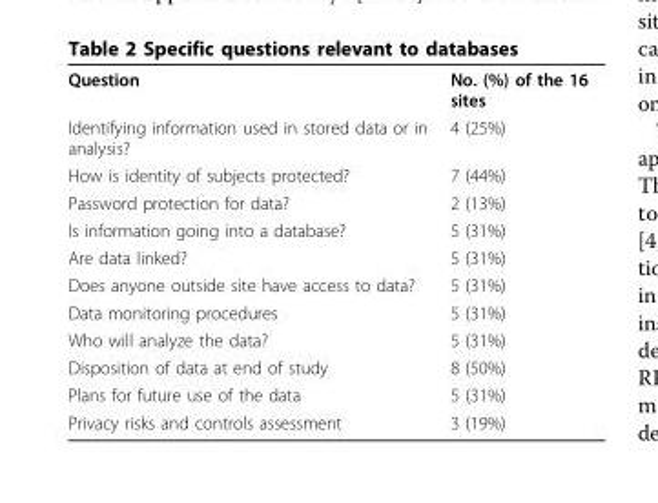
<table><tbody><tr><td>Question</td><td>No. (%) of the 16 sites</td></tr><tr><td>Identifying information used in stored data or in analysis?</td><td>4 (25%)</td></tr><tr><td>How is identity of subjects protected?</td><td>7 (44%)</td></tr><tr><td>Password protection for data?</td><td>2 (13%)</td></tr><tr><td>Is information going into a database?</td><td>5 (31%)</td></tr><tr><td>Are data linked?</td><td>5 (31%)</td></tr><tr><td>Does anyone outside site have access to data?</td><td>5 (31%)</td></tr><tr><td>Data monitoring procedures</td><td>5 (31%)</td></tr><tr><td>Who will analyze the data?</td><td>5 (31%)</td></tr><tr><td>Disposition of data at end of study</td><td>8 (50%)</td></tr><tr><td>Plans for future use of the data</td><td>5 (31%)</td></tr><tr><td>Privacy risks and controls assessment</td><td>3 (19%)</td></tr></tbody></table>